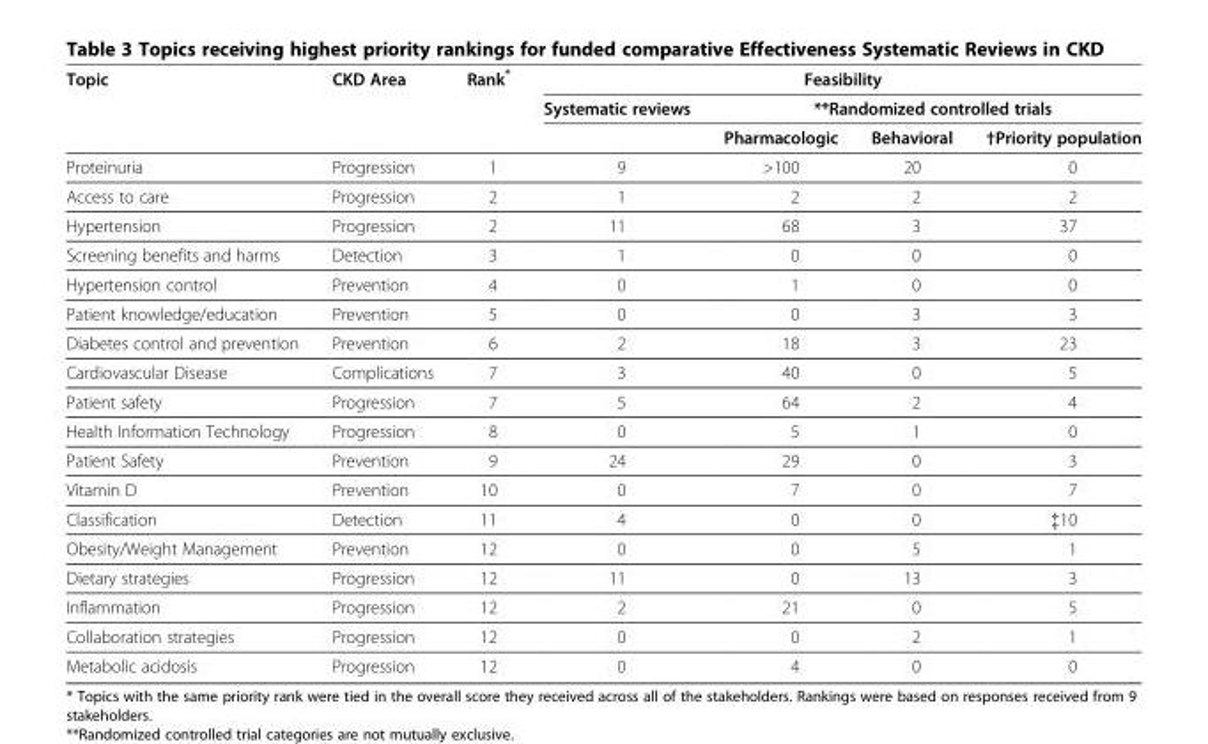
<table><thead><tr><td rowspan="3">Topic</td><td rowspan="3">CKD Area</td><td rowspan="3">Rank*</td><td colspan="4">Feasibility</td></tr><tr><td rowspan="2">Systematic reviews</td><td colspan="3">**Randomized controlled trials</td></tr><tr><td>Pharmacologic</td><td>Behavioral</td><td>†Priority population</td></tr></thead><tbody><tr><td>Proteinuria</td><td>Progression</td><td>1</td><td>9</td><td>&gt;100</td><td>20</td><td>0</td></tr><tr><td>Access to care</td><td>Progression</td><td>2</td><td>1</td><td>2</td><td>2</td><td>2</td></tr><tr><td>Hypertension</td><td>Progression</td><td>2</td><td>11</td><td>68</td><td>3</td><td>37</td></tr><tr><td>Screening benefits and harms</td><td>Detection</td><td>3</td><td>1</td><td>0</td><td>0</td><td>0</td></tr><tr><td>Hypertension control</td><td>Prevention</td><td>4</td><td>0</td><td>1</td><td>0</td><td>0</td></tr><tr><td>Patient knowledge/education</td><td>Prevention</td><td>5</td><td>0</td><td>0</td><td>3</td><td>3</td></tr><tr><td>Diabetes control and prevention</td><td>Prevention</td><td>6</td><td>2</td><td>18</td><td>3</td><td>23</td></tr><tr><td>Cardiovascular Disease</td><td>Complications</td><td>7</td><td>3</td><td>40</td><td>0</td><td>5</td></tr><tr><td>Patient safety</td><td>Progression</td><td>7</td><td>5</td><td>64</td><td>2</td><td>4</td></tr><tr><td>Health Information Technology</td><td>Progression</td><td>8</td><td>0</td><td>5</td><td>1</td><td>0</td></tr><tr><td>Patient Safety</td><td>Prevention</td><td>9</td><td>24</td><td>29</td><td>0</td><td>3</td></tr><tr><td>Vitamin D</td><td>Prevention</td><td>10</td><td>0</td><td>7</td><td>0</td><td>7</td></tr><tr><td>Classification</td><td>Detection</td><td>11</td><td>4</td><td>0</td><td>0</td><td>‡10</td></tr><tr><td>Obesity/Weight Management</td><td>Prevention</td><td>12</td><td>0</td><td>0</td><td>5</td><td>1</td></tr><tr><td>Dietary strategies</td><td>Progression</td><td>12</td><td>11</td><td>0</td><td>13</td><td>3</td></tr><tr><td>Inflammation</td><td>Progression</td><td>12</td><td>2</td><td>21</td><td>0</td><td>5</td></tr><tr><td>Collaboration strategies</td><td>Progression</td><td>12</td><td>0</td><td>0</td><td>2</td><td>1</td></tr><tr><td>Metabolic acidosis</td><td>Progression</td><td>12</td><td>0</td><td>4</td><td>0</td><td>0</td></tr></tbody></table>